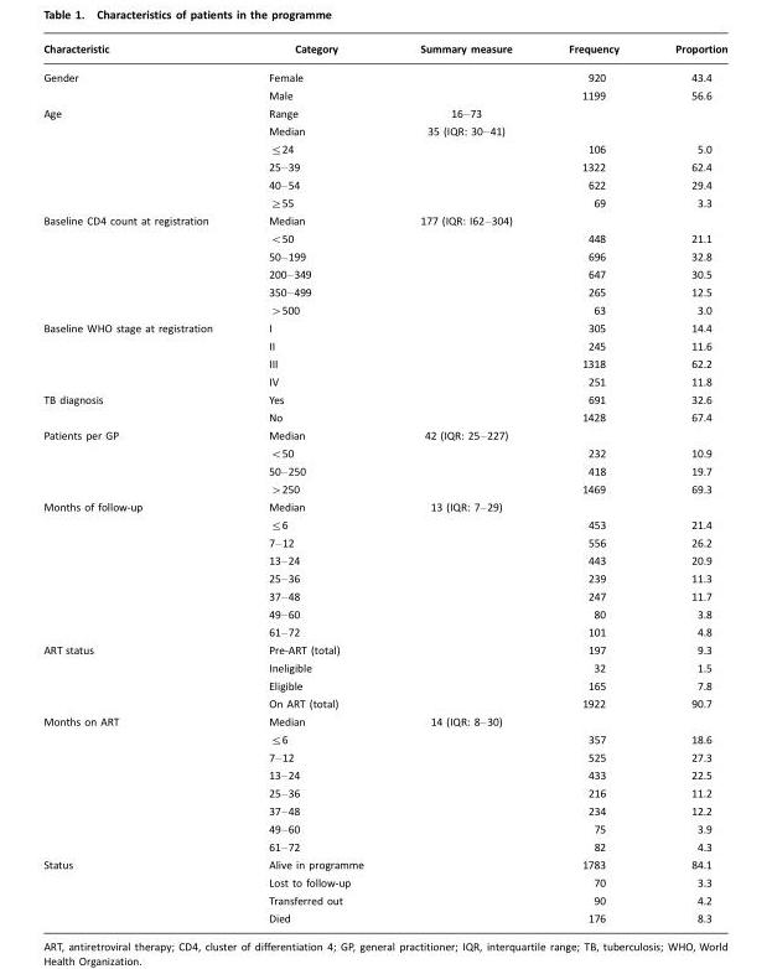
<table><thead><tr><td>Characteristic</td><td>Category</td><td>Summary measure</td><td>Frequency</td><td>Proportion</td></tr></thead><tbody><tr><td rowspan="2">Gender</td><td>Female</td><td></td><td>920</td><td>43.4</td></tr><tr><td>Male</td><td></td><td>1199</td><td>56.6</td></tr><tr><td rowspan="6">Age</td><td>Range</td><td>16–73</td><td></td><td></td></tr><tr><td>Median</td><td>35 (IQR: 30–41)</td><td></td><td></td></tr><tr><td>≤24</td><td></td><td>106</td><td>5.0</td></tr><tr><td>25–39</td><td></td><td>1322</td><td>62.4</td></tr><tr><td>40–54</td><td></td><td>622</td><td>29.4</td></tr><tr><td>≥55</td><td></td><td>69</td><td>3.3</td></tr><tr><td rowspan="6">Baseline CD4 count at registration</td><td>Median</td><td>177 (IQR: I62–304)</td><td></td><td></td></tr><tr><td>&lt;50</td><td></td><td>448</td><td>21.1</td></tr><tr><td>50–199</td><td></td><td>696</td><td>32.8</td></tr><tr><td>200–349</td><td></td><td>647</td><td>30.5</td></tr><tr><td>350–499</td><td></td><td>265</td><td>12.5</td></tr><tr><td>&gt;500</td><td></td><td>63</td><td>3.0</td></tr><tr><td rowspan="4">Baseline WHO stage at registration</td><td>I</td><td></td><td>305</td><td>14.4</td></tr><tr><td>II</td><td></td><td>245</td><td>11.6</td></tr><tr><td>III</td><td></td><td>1318</td><td>62.2</td></tr><tr><td>IV</td><td></td><td>251</td><td>11.8</td></tr><tr><td rowspan="2">TB diagnosis</td><td>Yes</td><td></td><td>691</td><td>32.6</td></tr><tr><td>No</td><td></td><td>1428</td><td>67.4</td></tr><tr><td rowspan="4">Patients per GP</td><td>Median</td><td>42 (IQR: 25–227)</td><td></td><td></td></tr><tr><td>&lt;50</td><td></td><td>232</td><td>10.9</td></tr><tr><td>50–250</td><td></td><td>418</td><td>19.7</td></tr><tr><td>&gt;250</td><td></td><td>1469</td><td>69.3</td></tr><tr><td rowspan="8">Months of follow-up</td><td>Median</td><td>13 (IQR: 7–29)</td><td></td><td></td></tr><tr><td>≤6</td><td></td><td>453</td><td>21.4</td></tr><tr><td>7–12</td><td></td><td>556</td><td>26.2</td></tr><tr><td>13–24</td><td></td><td>443</td><td>20.9</td></tr><tr><td>25–36</td><td></td><td>239</td><td>11.3</td></tr><tr><td>37–48</td><td></td><td>247</td><td>11.7</td></tr><tr><td>49–60</td><td></td><td>80</td><td>3.8</td></tr><tr><td>61–72</td><td></td><td>101</td><td>4.8</td></tr><tr><td rowspan="4">ART status</td><td>Pre-ART (total)</td><td></td><td>197</td><td>9.3</td></tr><tr><td>Ineligible</td><td></td><td>32</td><td>1.5</td></tr><tr><td>Eligible</td><td></td><td>165</td><td>7.8</td></tr><tr><td>On ART (total)</td><td></td><td>1922</td><td>90.7</td></tr><tr><td rowspan="8">Months on ART</td><td>Median</td><td>14 (IQR: 8–30)</td><td></td><td></td></tr><tr><td>≤6</td><td></td><td>357</td><td>18.6</td></tr><tr><td>7–12</td><td></td><td>525</td><td>27.3</td></tr><tr><td>13–24</td><td></td><td>433</td><td>22.5</td></tr><tr><td>25–36</td><td></td><td>216</td><td>11.2</td></tr><tr><td>37–48</td><td></td><td>234</td><td>12.2</td></tr><tr><td>49–60</td><td></td><td>75</td><td>3.9</td></tr><tr><td>61–72</td><td></td><td>82</td><td>4.3</td></tr><tr><td rowspan="4">Status</td><td>Alive in programme</td><td></td><td>1783</td><td>84.1</td></tr><tr><td>Lost to follow-up</td><td></td><td>70</td><td>3.3</td></tr><tr><td>Transferred out</td><td></td><td>90</td><td>4.2</td></tr><tr><td>Died</td><td></td><td>176</td><td>8.3</td></tr></tbody></table>